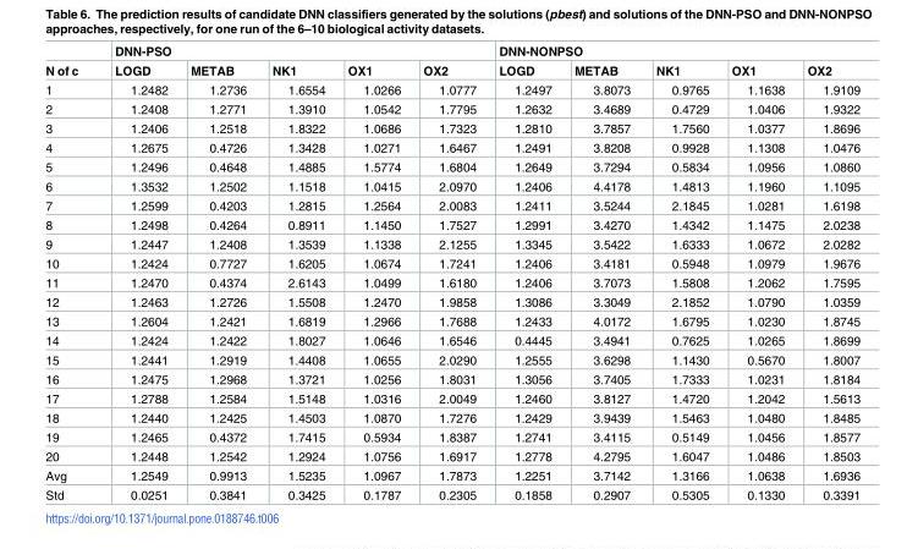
<table><thead><tr><td rowspan="2">N of c</td><td colspan="5">DNN-PSO</td><td colspan="5">DNN-NONPSO</td></tr><tr><td>LOGD</td><td>METAB</td><td>NK1</td><td>OX1</td><td>OX2</td><td>LOGD</td><td>METAB</td><td>NK1</td><td>OX1</td><td>OX2</td></tr></thead><tbody><tr><td>1</td><td>1.2482</td><td>1.2736</td><td>1.6554</td><td>1.0266</td><td>1.0777</td><td>1.2497</td><td>3.8073</td><td>0.9765</td><td>1.1638</td><td>1.9109</td></tr><tr><td>2</td><td>1.2408</td><td>1.2771</td><td>1.3910</td><td>1.0542</td><td>1.7795</td><td>1.2632</td><td>3.4689</td><td>0.4729</td><td>1.0406</td><td>1.9322</td></tr><tr><td>3</td><td>1.2406</td><td>1.2518</td><td>1.8322</td><td>1.0686</td><td>1.7323</td><td>1.2810</td><td>3.7857</td><td>1.7560</td><td>1.0377</td><td>1.8696</td></tr><tr><td>4</td><td>1.2675</td><td>0.4726</td><td>1.3428</td><td>1.0271</td><td>1.6467</td><td>1.2491</td><td>3.8208</td><td>0.9928</td><td>1.1308</td><td>1.0476</td></tr><tr><td>5</td><td>1.2496</td><td>0.4648</td><td>1.4885</td><td>1.5774</td><td>1.6804</td><td>1.2649</td><td>3.7294</td><td>0.5834</td><td>1.0956</td><td>1.0860</td></tr><tr><td>6</td><td>1.3532</td><td>1.2502</td><td>1.1518</td><td>1.0415</td><td>2.0970</td><td>1.2406</td><td>4.4178</td><td>1.4813</td><td>1.1960</td><td>1.1095</td></tr><tr><td>7</td><td>1.2599</td><td>0.4203</td><td>1.2815</td><td>1.2564</td><td>2.0083</td><td>1.2411</td><td>3.5244</td><td>2.1845</td><td>1.0281</td><td>1.6198</td></tr><tr><td>8</td><td>1.2498</td><td>0.4264</td><td>0.8911</td><td>1.1450</td><td>1.7527</td><td>1.2991</td><td>3.4270</td><td>1.4342</td><td>1.1475</td><td>2.0238</td></tr><tr><td>9</td><td>1.2447</td><td>1.2408</td><td>1.3539</td><td>1.1338</td><td>2.1255</td><td>1.3345</td><td>3.5422</td><td>1.6333</td><td>1.0672</td><td>2.0282</td></tr><tr><td>10</td><td>1.2424</td><td>0.7727</td><td>1.6205</td><td>1.0674</td><td>1.7241</td><td>1.2406</td><td>3.4181</td><td>0.5948</td><td>1.0979</td><td>1.9676</td></tr><tr><td>11</td><td>1.2470</td><td>0.4374</td><td>2.6143</td><td>1.0499</td><td>1.6180</td><td>1.2406</td><td>3.7073</td><td>1.5808</td><td>1.2062</td><td>1.7595</td></tr><tr><td>12</td><td>1.2463</td><td>1.2726</td><td>1.5508</td><td>1.2470</td><td>1.9858</td><td>1.3086</td><td>3.3049</td><td>2.1852</td><td>1.0790</td><td>1.0359</td></tr><tr><td>13</td><td>1.2604</td><td>1.2421</td><td>1.6819</td><td>1.2966</td><td>1.7688</td><td>1.2433</td><td>4.0172</td><td>1.6795</td><td>1.0230</td><td>1.8745</td></tr><tr><td>14</td><td>1.2424</td><td>1.2422</td><td>1.8027</td><td>1.0646</td><td>1.6546</td><td>0.4445</td><td>3.4941</td><td>0.7625</td><td>1.0265</td><td>1.8699</td></tr><tr><td>15</td><td>1.2441</td><td>1.2919</td><td>1.4408</td><td>1.0655</td><td>2.0290</td><td>1.2555</td><td>3.6298</td><td>1.1430</td><td>0.5670</td><td>1.8007</td></tr><tr><td>16</td><td>1.2475</td><td>1.2968</td><td>1.3721</td><td>1.0256</td><td>1.8031</td><td>1.3056</td><td>3.7405</td><td>1.7333</td><td>1.0231</td><td>1.8184</td></tr><tr><td>17</td><td>1.2788</td><td>1.2584</td><td>1.5148</td><td>1.0316</td><td>2.0049</td><td>1.2460</td><td>3.8127</td><td>1.4720</td><td>1.2042</td><td>1.5613</td></tr><tr><td>18</td><td>1.2440</td><td>1.2425</td><td>1.4503</td><td>1.0870</td><td>1.7276</td><td>1.2429</td><td>3.9439</td><td>1.5463</td><td>1.0480</td><td>1.8485</td></tr><tr><td>19</td><td>1.2465</td><td>0.4372</td><td>1.7415</td><td>0.5934</td><td>1.8387</td><td>1.2741</td><td>3.4115</td><td>0.5149</td><td>1.0456</td><td>1.8577</td></tr><tr><td>20</td><td>1.2448</td><td>1.2542</td><td>1.2924</td><td>1.0756</td><td>1.6917</td><td>1.2778</td><td>4.2795</td><td>1.6047</td><td>1.0486</td><td>1.8503</td></tr><tr><td>Avg</td><td>1.2549</td><td>0.9913</td><td>1.5235</td><td>1.0967</td><td>1.7873</td><td>1.2251</td><td>3.7142</td><td>1.3166</td><td>1.0638</td><td>1.6936</td></tr><tr><td>Std</td><td>0.0251</td><td>0.3841</td><td>0.3425</td><td>0.1787</td><td>0.2305</td><td>0.1858</td><td>0.2907</td><td>0.5305</td><td>0.1330</td><td>0.3391</td></tr></tbody></table>